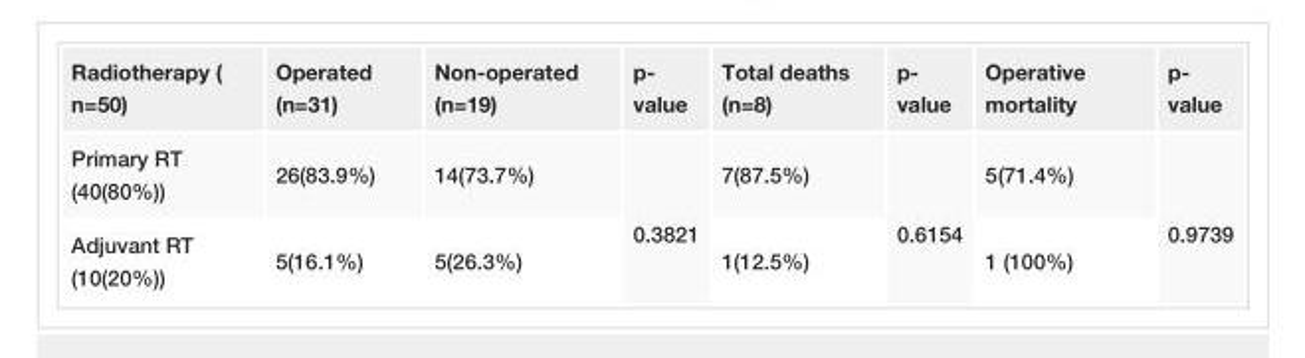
<table><tbody><tr><td>Radiotherapy ( n=50)</td><td>Operated (n=31)</td><td>Non-operated (n=19)</td><td>p- value</td><td>Total deaths (n=8)</td><td>p- value</td><td>Operative mortality</td><td>p- value</td></tr><tr><td>Primary RT (40(80%))</td><td>26(83.9%)</td><td>14(73.7%)</td><td rowspan="2">0.3821</td><td>7(87.5%)</td><td rowspan="2">0.6154</td><td>5(71.4%)</td><td rowspan="2">0.9739</td></tr><tr><td>Adjuvant RT (10(20%))</td><td>5(16.1%)</td><td>5(26.3%)</td><td>1(12.5%)</td><td>1 (100%)</td></tr></tbody></table>